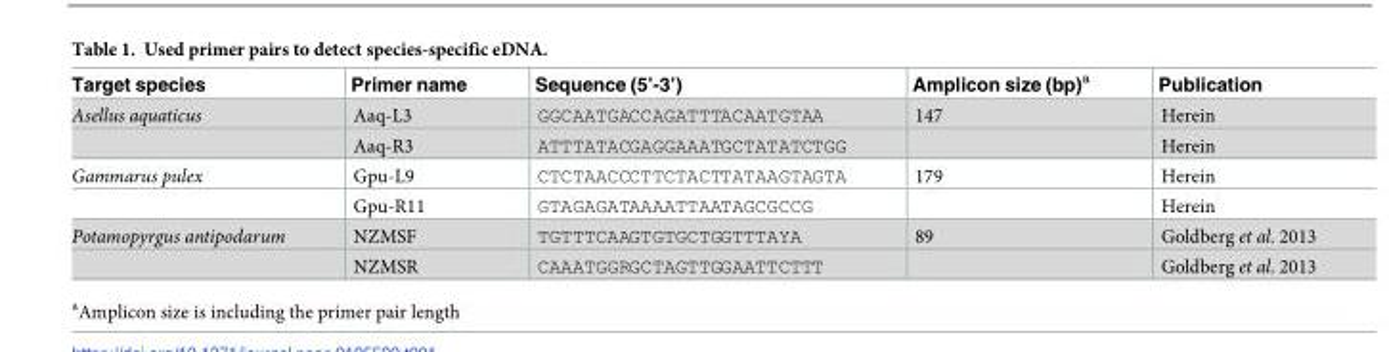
<table><thead><tr><td>Target species</td><td>Primer name</td><td>Sequence (5’-3’)</td><td>Amplicon size (bp)<sup>a</sup></td><td>Publication</td></tr></thead><tbody><tr><td rowspan="2">Asellus aquaticus</td><td>Aaq-L3</td><td>GGCAATGACCAGATTTACAATGTAA</td><td>147</td><td>Herein</td></tr><tr><td>Aaq-R3</td><td>ATTTATACGAGGAAATGCTATATCTGG</td><td></td><td>Herein</td></tr><tr><td rowspan="2">Gammarus pulex</td><td>Gpu-L9</td><td>CTCTAACCCTTCTACTTATAAGTAGTA</td><td>179</td><td>Herein</td></tr><tr><td>Gpu-R11</td><td>GTAGAGATAAAATTAATAGCGCCG</td><td></td><td>Herein</td></tr><tr><td rowspan="2">Potamopyrgus antipodarum</td><td>NZMSF</td><td>TGTTTCAAGTGTGCTGGTTTAYA</td><td>89</td><td>Goldberg et al. 2013</td></tr><tr><td>NZMSR</td><td>CAAATGGRGCTAGTTGGAATTCTTT</td><td></td><td>Goldberg et al. 2013</td></tr></tbody></table>